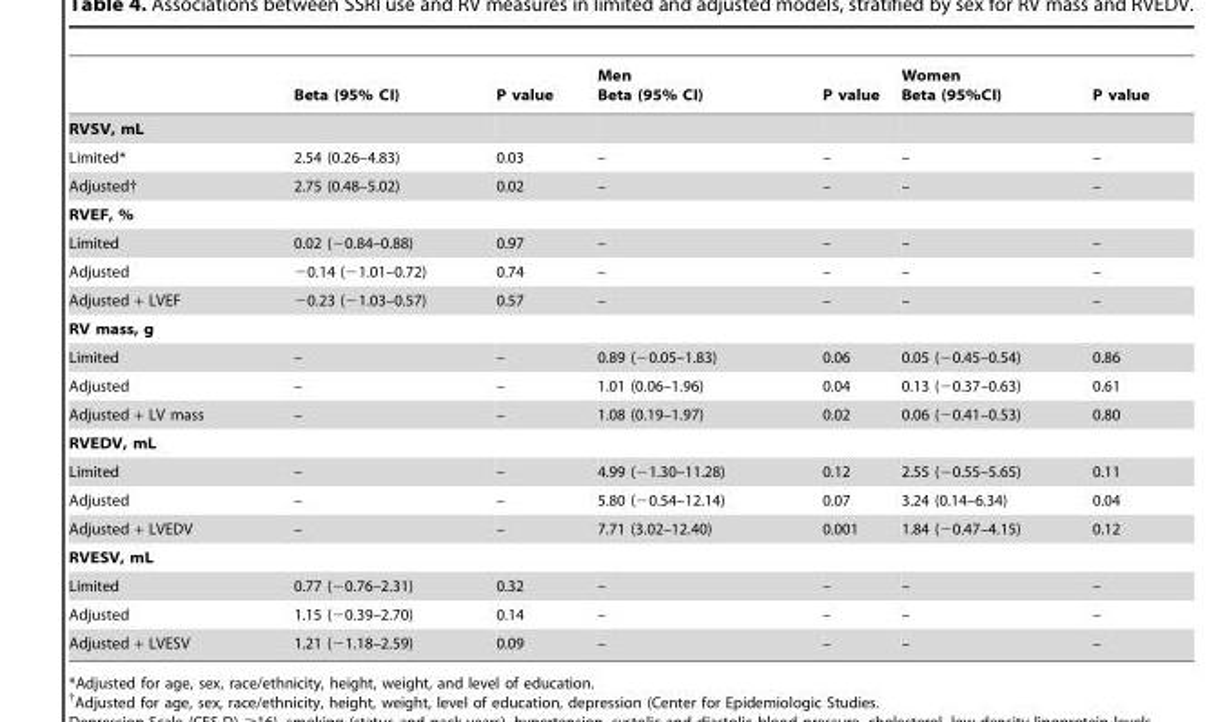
<table><thead><tr><td></td><td>Beta (95% CI)</td><td>P value</td><td>Men Beta (95% CI)</td><td>P value</td><td>Women Beta (95%CI)</td><td>P value</td></tr></thead><tbody><tr><td colspan="7">RVSV, mL</td></tr><tr><td>Limited*</td><td>2.54 (0.26–4.83)</td><td>0.03</td><td>–</td><td>–</td><td>–</td><td>–</td></tr><tr><td>Adjusted†</td><td>2.75 (0.48–5.02)</td><td>0.02</td><td>–</td><td>–</td><td>–</td><td>–</td></tr><tr><td colspan="7">RVEF, %</td></tr><tr><td>Limited</td><td>0.02 (−0.84–0.88)</td><td>0.97</td><td>–</td><td>–</td><td>–</td><td>–</td></tr><tr><td>Adjusted</td><td>−0.14 (−1.01–0.72)</td><td>0.74</td><td>–</td><td>–</td><td>–</td><td>–</td></tr><tr><td>Adjusted + LVEF</td><td>−0.23 (−1.03–0.57)</td><td>0.57</td><td>–</td><td>–</td><td>–</td><td>–</td></tr><tr><td colspan="7">RV mass, g</td></tr><tr><td>Limited</td><td>–</td><td>–</td><td>0.89 (−0.05–1.83)</td><td>0.06</td><td>0.05 (−0.45–0.54)</td><td>0.86</td></tr><tr><td>Adjusted</td><td>–</td><td>–</td><td>1.01 (0.06–1.96)</td><td>0.04</td><td>0.13 (−0.37–0.63)</td><td>0.61</td></tr><tr><td>Adjusted + LV mass</td><td>–</td><td>–</td><td>1.08 (0.19–1.97)</td><td>0.02</td><td>0.06 (−0.41–0.53)</td><td>0.80</td></tr><tr><td colspan="7">RVEDV, mL</td></tr><tr><td>Limited</td><td>–</td><td>–</td><td>4.99 (−1.30–11.28)</td><td>0.12</td><td>2.55 (−0.55–5.65)</td><td>0.11</td></tr><tr><td>Adjusted</td><td>–</td><td>–</td><td>5.80 (−0.54–12.14)</td><td>0.07</td><td>3.24 (0.14–6.34)</td><td>0.04</td></tr><tr><td>Adjusted + LVEDV</td><td>–</td><td>–</td><td>7.71 (3.02–12.40)</td><td>0.001</td><td>1.84 (−0.47–4.15)</td><td>0.12</td></tr><tr><td colspan="7">RVESV, mL</td></tr><tr><td>Limited</td><td>0.77 (−0.76–2.31)</td><td>0.32</td><td>–</td><td>–</td><td>–</td><td>–</td></tr><tr><td>Adjusted</td><td>1.15 (−0.39–2.70)</td><td>0.14</td><td>–</td><td>–</td><td>–</td><td>–</td></tr><tr><td>Adjusted + LVESV</td><td>1.21 (−1.18–2.59)</td><td>0.09</td><td>–</td><td>–</td><td>–</td><td>–</td></tr></tbody></table>